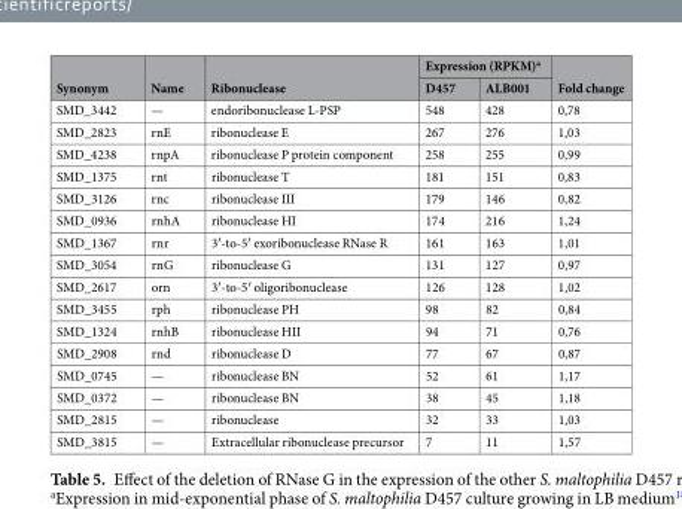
<table><thead><tr><td rowspan="2">Synonym</td><td rowspan="2">Name</td><td rowspan="2">Ribonuclease</td><td colspan="2">Expression (RPKM)<sup>a</sup></td><td rowspan="2">Fold change</td></tr><tr><td>D457</td><td>ALB001</td></tr></thead><tbody><tr><td>SMD_3442</td><td>—</td><td>endoribonuclease L-PSP</td><td>548</td><td>428</td><td>0,78</td></tr><tr><td>SMD_2823</td><td>rnE</td><td>ribonuclease E</td><td>267</td><td>276</td><td>1,03</td></tr><tr><td>SMD_4238</td><td>rnpA</td><td>ribonuclease P protein component</td><td>258</td><td>255</td><td>0,99</td></tr><tr><td>SMD_1375</td><td>rnt</td><td>ribonuclease T</td><td>181</td><td>151</td><td>0,83</td></tr><tr><td>SMD_3126</td><td>rnc</td><td>ribonuclease III</td><td>179</td><td>146</td><td>0,82</td></tr><tr><td>SMD_0936</td><td>rnhA</td><td>ribonuclease HI</td><td>174</td><td>216</td><td>1,24</td></tr><tr><td>SMD_1367</td><td>rnr</td><td>3′-to-5′ exoribonuclease RNase R</td><td>161</td><td>163</td><td>1,01</td></tr><tr><td>SMD_3054</td><td>rnG</td><td>ribonuclease G</td><td>131</td><td>127</td><td>0,97</td></tr><tr><td>SMD_2617</td><td>orn</td><td>3′-to-5′ oligoribonuclease</td><td>126</td><td>128</td><td>1,02</td></tr><tr><td>SMD_3455</td><td>rph</td><td>ribonuclease PH</td><td>98</td><td>82</td><td>0,84</td></tr><tr><td>SMD_1324</td><td>rnhB</td><td>ribonuclease HII</td><td>94</td><td>71</td><td>0,76</td></tr><tr><td>SMD_2908</td><td>rnd</td><td>ribonuclease D</td><td>77</td><td>67</td><td>0,87</td></tr><tr><td>SMD_0745</td><td>—</td><td>ribonuclease BN</td><td>52</td><td>61</td><td>1,17</td></tr><tr><td>SMD_0372</td><td>—</td><td>ribonuclease BN</td><td>38</td><td>45</td><td>1,18</td></tr><tr><td>SMD_2815</td><td>—</td><td>ribonuclease</td><td>32</td><td>33</td><td>1,03</td></tr><tr><td>SMD_3815</td><td>—</td><td>Extracellular ribonuclease precursor</td><td>7</td><td>11</td><td>1,57</td></tr></tbody></table>